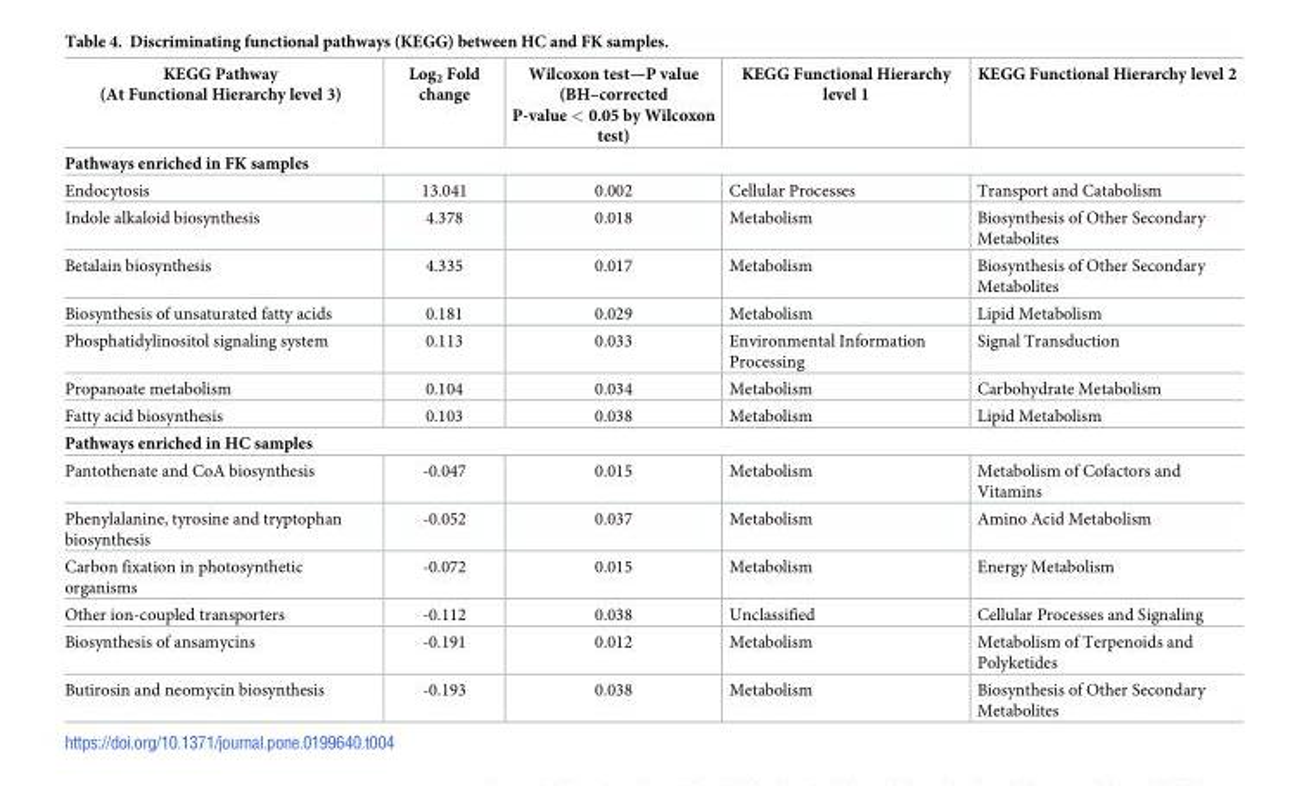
<table><thead><tr><td>KEGG Pathway (At Functional Hierarchy level 3)</td><td>Log<sub>2</sub> Fold change</td><td>Wilcoxon test—P value (BH–corrected P-value &lt; 0.05 by Wilcoxon test)</td><td>KEGG Functional Hierarchy level 1</td><td>KEGG Functional Hierarchy level 2</td></tr></thead><tbody><tr><td colspan="5">Pathways enriched in FK samples</td></tr><tr><td>Endocytosis</td><td>13.041</td><td>0.002</td><td>Cellular Processes</td><td>Transport and Catabolism</td></tr><tr><td>Indole alkaloid biosynthesis</td><td>4.378</td><td>0.018</td><td>Metabolism</td><td>Biosynthesis of Other Secondary Metabolites</td></tr><tr><td>Betalain biosynthesis</td><td>4.335</td><td>0.017</td><td>Metabolism</td><td>Biosynthesis of Other Secondary Metabolites</td></tr><tr><td>Biosynthesis of unsaturated fatty acids</td><td>0.181</td><td>0.029</td><td>Metabolism</td><td>Lipid Metabolism</td></tr><tr><td>Phosphatidylinositol signaling system</td><td>0.113</td><td>0.033</td><td>Environmental Information Processing</td><td>Signal Transduction</td></tr><tr><td>Propanoate metabolism</td><td>0.104</td><td>0.034</td><td>Metabolism</td><td>Carbohydrate Metabolism</td></tr><tr><td>Fatty acid biosynthesis</td><td>0.103</td><td>0.038</td><td>Metabolism</td><td>Lipid Metabolism</td></tr><tr><td colspan="5">Pathways enriched in HC samples</td></tr><tr><td>Pantothenate and CoA biosynthesis</td><td>-0.047</td><td>0.015</td><td>Metabolism</td><td>Metabolism of Cofactors and Vitamins</td></tr><tr><td>Phenylalanine, tyrosine and tryptophan biosynthesis</td><td>-0.052</td><td>0.037</td><td>Metabolism</td><td>Amino Acid Metabolism</td></tr><tr><td>Carbon fixation in photosynthetic organisms</td><td>-0.072</td><td>0.015</td><td>Metabolism</td><td>Energy Metabolism</td></tr><tr><td>Other ion-coupled transporters</td><td>-0.112</td><td>0.038</td><td>Unclassified</td><td>Cellular Processes and Signaling</td></tr><tr><td>Biosynthesis of ansamycins</td><td>-0.191</td><td>0.012</td><td>Metabolism</td><td>Metabolism of Terpenoids and Polyketides</td></tr><tr><td>Butirosin and neomycin biosynthesis</td><td>-0.193</td><td>0.038</td><td>Metabolism</td><td>Biosynthesis of Other Secondary Metabolites</td></tr></tbody></table>